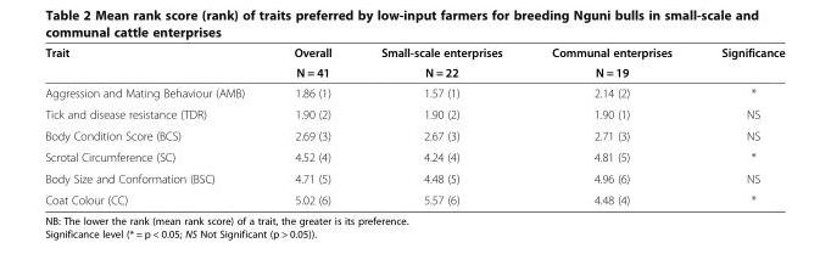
<table><thead><tr><td rowspan="2">Trait</td><td rowspan="2">Overall N = 41</td><td rowspan="2">Small-scale enterprises N = 22</td><td rowspan="2">Communal enterprises N = 19</td><td rowspan="2">Significance</td></tr><tr></tr></thead><tbody><tr><td>Aggression and Mating Behaviour (AMB)</td><td>1.86 (1)</td><td>1.57 (1)</td><td>2.14 (2)</td><td>*</td></tr><tr><td>Tick and disease resistance (TDR)</td><td>1.90 (2)</td><td>1.90 (2)</td><td>1.90 (1)</td><td>NS</td></tr><tr><td>Body Condition Score (BCS)</td><td>2.69 (3)</td><td>2.67 (3)</td><td>2.71 (3)</td><td>NS</td></tr><tr><td>Scrotal Circumference (SC)</td><td>4.52 (4)</td><td>4.24 (4)</td><td>4.81 (5)</td><td>*</td></tr><tr><td>Body Size and Conformation (BSC)</td><td>4.71 (5)</td><td>4.48 (5)</td><td>4.96 (6)</td><td>NS</td></tr><tr><td>Coat Colour (CC)</td><td>5.02 (6)</td><td>5.57 (6)</td><td>4.48 (4)</td><td>*</td></tr></tbody></table>